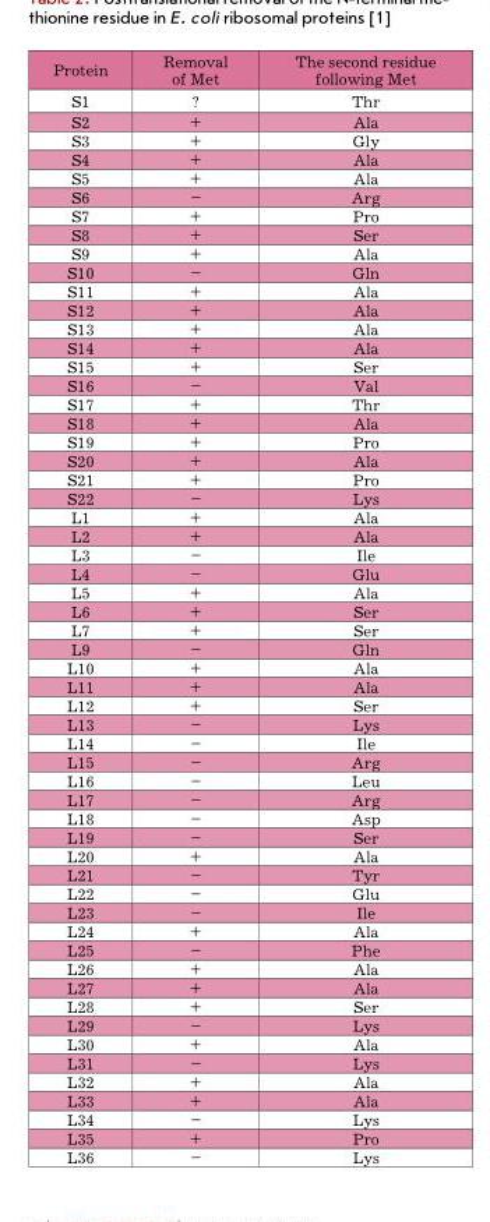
<table><thead><tr><td>Protein</td><td>Removal of Met</td><td>The second residue following Met</td></tr></thead><tbody><tr><td>S1</td><td>?</td><td>Thr</td></tr><tr><td>S2</td><td>+</td><td>Ala</td></tr><tr><td>S3</td><td>+</td><td>Gly</td></tr><tr><td>S4</td><td>+</td><td>Ala</td></tr><tr><td>S5</td><td>+</td><td>Ala</td></tr><tr><td>S6</td><td>–</td><td>Arg</td></tr><tr><td>S7</td><td>+</td><td>Pro</td></tr><tr><td>S8</td><td>+</td><td>Ser</td></tr><tr><td>S9</td><td>+</td><td>Ala</td></tr><tr><td>S10</td><td>–</td><td>Gln</td></tr><tr><td>S11</td><td>+</td><td>Ala</td></tr><tr><td>S12</td><td>+</td><td>Ala</td></tr><tr><td>S13</td><td>+</td><td>Ala</td></tr><tr><td>S14</td><td>+</td><td>Ala</td></tr><tr><td>S15</td><td>+</td><td>Ser</td></tr><tr><td>S16</td><td>–</td><td>Val</td></tr><tr><td>S17</td><td>+</td><td>Thr</td></tr><tr><td>S18</td><td>+</td><td>Ala</td></tr><tr><td>S19</td><td>+</td><td>Pro</td></tr><tr><td>S20</td><td>+</td><td>Ala</td></tr><tr><td>S21</td><td>+</td><td>Pro</td></tr><tr><td>S22</td><td>–</td><td>Lys</td></tr><tr><td>L1</td><td>+</td><td>Ala</td></tr><tr><td>L2</td><td>+</td><td>Ala</td></tr><tr><td>L3</td><td>–</td><td>Ile</td></tr><tr><td>L4</td><td>–</td><td>Glu</td></tr><tr><td>L5</td><td>+</td><td>Ala</td></tr><tr><td>L6</td><td>+</td><td>Ser</td></tr><tr><td>L7</td><td>+</td><td>Ser</td></tr><tr><td>L9</td><td>–</td><td>Gln</td></tr><tr><td>L10</td><td>+</td><td>Ala</td></tr><tr><td>L11</td><td>+</td><td>Ala</td></tr><tr><td>L12</td><td>+</td><td>Ser</td></tr><tr><td>L13</td><td>–</td><td>Lys</td></tr><tr><td>L14</td><td>–</td><td>Ile</td></tr><tr><td>L15</td><td>–</td><td>Arg</td></tr><tr><td>L16</td><td>–</td><td>Leu</td></tr><tr><td>L17</td><td>–</td><td>Arg</td></tr><tr><td>L18</td><td>–</td><td>Asp</td></tr><tr><td>L19</td><td>–</td><td>Ser</td></tr><tr><td>L20</td><td>+</td><td>Ala</td></tr><tr><td>L21</td><td>–</td><td>Tyr</td></tr><tr><td>L22</td><td>–</td><td>Glu</td></tr><tr><td>L23</td><td>–</td><td>Ile</td></tr><tr><td>L24</td><td>+</td><td>Ala</td></tr><tr><td>L25</td><td>–</td><td>Phe</td></tr><tr><td>L26</td><td>+</td><td>Ala</td></tr><tr><td>L27</td><td>+</td><td>Ala</td></tr><tr><td>L28</td><td>+</td><td>Ser</td></tr><tr><td>L29</td><td>–</td><td>Lys</td></tr><tr><td>L30</td><td>+</td><td>Ala</td></tr><tr><td>L31</td><td>–</td><td>Lys</td></tr><tr><td>L32</td><td>+</td><td>Ala</td></tr><tr><td>L33</td><td>+</td><td>Ala</td></tr><tr><td>L34</td><td>–</td><td>Lys</td></tr><tr><td>L35</td><td>+</td><td>Pro</td></tr><tr><td>L36</td><td>–</td><td>Lys</td></tr></tbody></table>